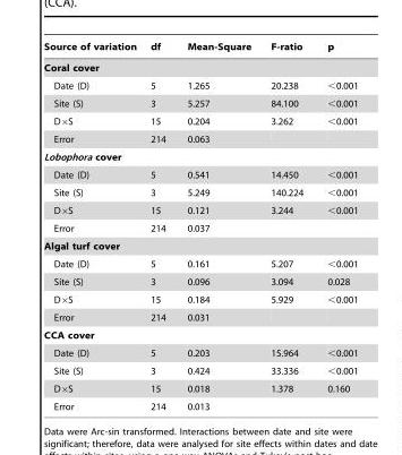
<table><thead><tr><td>Source of variation</td><td>df</td><td>Mean-Square</td><td>F-ratio</td><td>p</td></tr></thead><tbody><tr><td colspan="5">Coral cover</td></tr><tr><td>Date (D)</td><td>5</td><td>1.265</td><td>20.238</td><td>&lt;0.001</td></tr><tr><td>Site (S)</td><td>3</td><td>5.257</td><td>84.100</td><td>&lt;0.001</td></tr><tr><td>D×S</td><td>15</td><td>0.204</td><td>3.262</td><td>&lt;0.001</td></tr><tr><td>Error</td><td>214</td><td>0.063</td><td></td><td></td></tr><tr><td colspan="5">Lobophora cover</td></tr><tr><td>Date (D)</td><td>5</td><td>0.541</td><td>14.450</td><td>&lt;0.001</td></tr><tr><td>Site (S)</td><td>3</td><td>5.249</td><td>140.224</td><td>&lt;0.001</td></tr><tr><td>D×S</td><td>15</td><td>0.121</td><td>3.244</td><td>&lt;0.001</td></tr><tr><td>Error</td><td>214</td><td>0.037</td><td></td><td></td></tr><tr><td colspan="5">Algal turf cover</td></tr><tr><td>Date (D)</td><td>5</td><td>0.161</td><td>5.207</td><td>&lt;0.001</td></tr><tr><td>Site (S)</td><td>3</td><td>0.096</td><td>3.094</td><td>0.028</td></tr><tr><td>D×S</td><td>15</td><td>0.184</td><td>5.929</td><td>&lt;0.001</td></tr><tr><td>Error</td><td>214</td><td>0.031</td><td></td><td></td></tr><tr><td colspan="5">CCA cover</td></tr><tr><td>Date (D)</td><td>5</td><td>0.203</td><td>15.964</td><td>&lt;0.001</td></tr><tr><td>Site (S)</td><td>3</td><td>0.424</td><td>33.336</td><td>&lt;0.001</td></tr><tr><td>D×S</td><td>15</td><td>0.018</td><td>1.378</td><td>0.160</td></tr><tr><td>Error</td><td>214</td><td>0.013</td><td></td><td></td></tr></tbody></table>